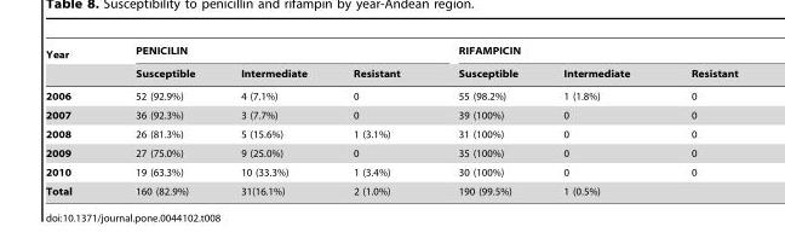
<table><thead><tr><td rowspan="2">Year</td><td colspan="3">PENICILIN</td><td colspan="3">RIFAMPICIN</td></tr><tr><td>Susceptible</td><td>Intermediate</td><td>Resistant</td><td>Susceptible</td><td>Intermediate</td><td>Resistant</td></tr></thead><tbody><tr><td>2006</td><td>52 (92.9%)</td><td>4 (7.1%)</td><td>0</td><td>55 (98.2%)</td><td>1 (1.8%)</td><td>0</td></tr><tr><td>2007</td><td>36 (92.3%)</td><td>3 (7.7%)</td><td>0</td><td>39 (100%)</td><td>0</td><td>0</td></tr><tr><td>2008</td><td>26 (81.3%)</td><td>5 (15.6%)</td><td>1 (3.1%)</td><td>31 (100%)</td><td>0</td><td>0</td></tr><tr><td>2009</td><td>27 (75.0%)</td><td>9 (25.0%)</td><td>0</td><td>35 (100%)</td><td>0</td><td>0</td></tr><tr><td>2010</td><td>19 (63.3%)</td><td>10 (33.3%)</td><td>1 (3.4%)</td><td>30 (100%)</td><td>0</td><td>0</td></tr><tr><td>Total</td><td>160 (82.9%)</td><td>31(16.1%)</td><td>2 (1.0%)</td><td>190 (99.5%)</td><td>1 (0.5%)</td><td></td></tr></tbody></table>